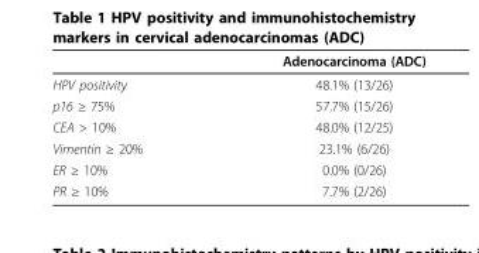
<table><thead><tr><td></td><td>Adenocarcinoma (ADC)</td></tr></thead><tbody><tr><td>HPV positivity</td><td>48.1% (13/26)</td></tr><tr><td>p16 ≥ 75%</td><td>57.7% (15/26)</td></tr><tr><td>CEA &gt; 10%</td><td>48.0% (12/25)</td></tr><tr><td>Vimentin ≥ 20%</td><td>23.1% (6/26)</td></tr><tr><td>ER ≥ 10%</td><td>0.0% (0/26)</td></tr><tr><td>PR ≥ 10%</td><td>7.7% (2/26)</td></tr></tbody></table>